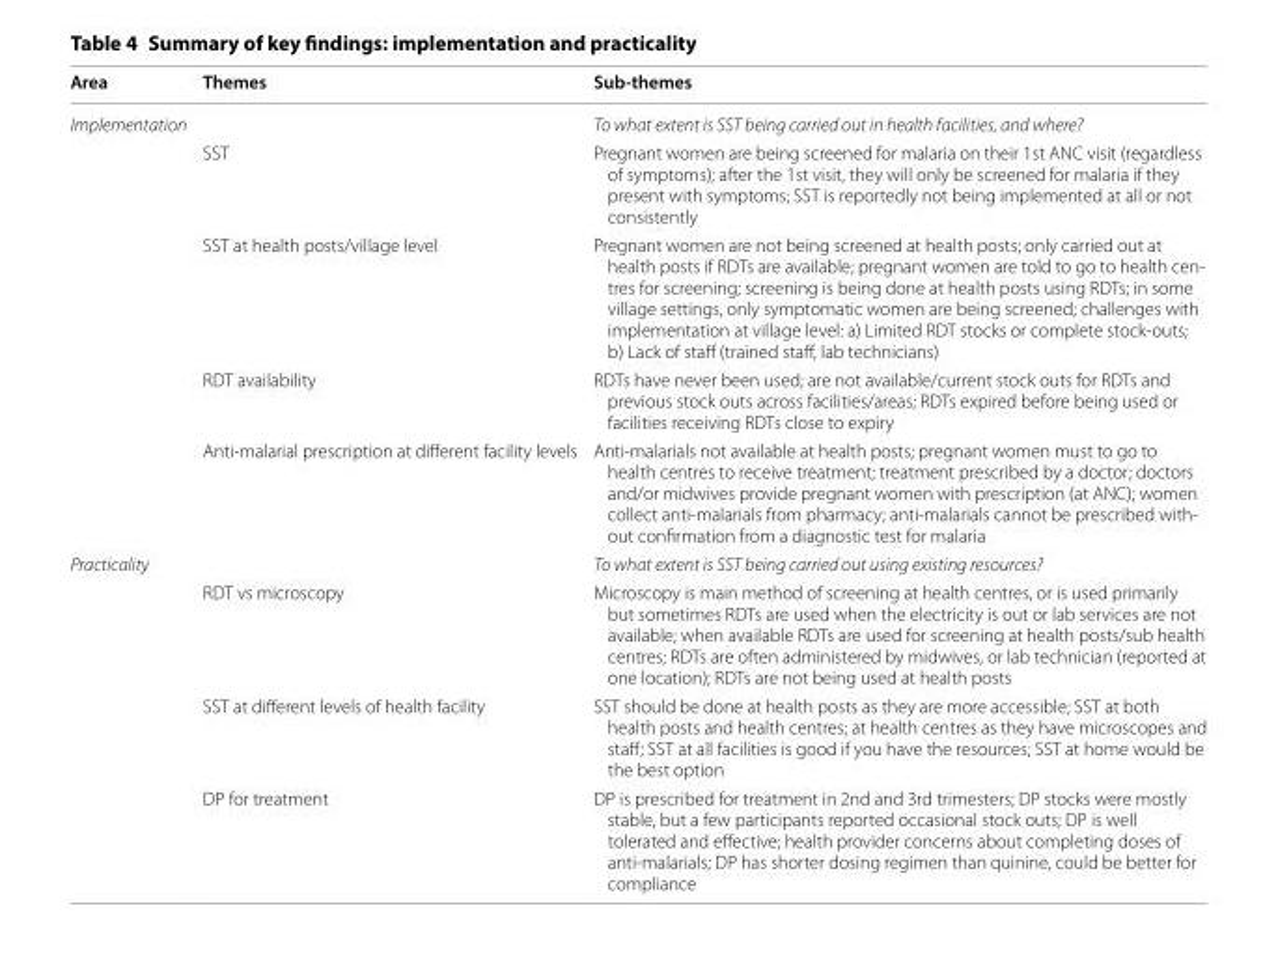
<table><thead><tr><td>Area</td><td>Themes</td><td>Sub-themes</td></tr></thead><tbody><tr><td rowspan="5">Implementation</td><td></td><td>To what extent is SST being carried out in health facilities, and where?</td></tr><tr><td>SST</td><td>Pregnant women are being screened for malaria on their 1st ANC visit (regardless of symptoms); after the 1st visit, they will only be screened for malaria if they present with symptoms; SST is reportedly not being implemented at all or not consistently</td></tr><tr><td>SST at health posts/village level</td><td>Pregnant women are not being screened at health posts; only carried out at health posts if RDTs are available; pregnant women are told to go to health cen- tres for screening; screening is being done at health posts using RDTs; in some village settings, only symptomatic women are being screened; challenges with implementation at village level: a) Limited RDT stocks or complete stock-outs; b) Lack of staff (trained staff, lab technicians)</td></tr><tr><td>RDT availability</td><td>RDTs have never been used; are not available/current stock outs for RDTs and previous stock outs across facilities/areas; RDTs expired before being used or facilities receiving RDTs close to expiry</td></tr><tr><td>Anti-malarial prescription at different facility levels</td><td>Anti-malarials not available at health posts; pregnant women must to go to health centres to receive treatment; treatment prescribed by a doctor; doctors and/or midwives provide pregnant women with prescription (at ANC); women collect anti-malarials from pharmacy; anti-malarials cannot be prescribed with- out confirmation from a diagnostic test for malaria</td></tr><tr><td rowspan="4">Practicality</td><td></td><td>To what extent is SST being carried out using existing resources?</td></tr><tr><td>RDT vs microscopy</td><td>Microscopy is main method of screening at health centres, or is used primarily but sometimes RDTs are used when the electricity is out or lab services are not available; when available RDTs are used for screening at health posts/sub health centres; RDTs are often administered by midwives, or lab technician (reported at one location); RDTs are not being used at health posts</td></tr><tr><td>SST at different levels of health facility</td><td>SST should be done at health posts as they are more accessible; SST at both health posts and health centres; at health centres as they have microscopes and staff; SST at all facilities is good if you have the resources; SST at home would be the best option</td></tr><tr><td>DP for treatment</td><td>DP is prescribed for treatment in 2nd and 3rd trimesters; DP stocks were mostly stable, but a few participants reported occasional stock outs; DP is well tolerated and effective; health provider concerns about completing doses of anti-malarials; DP has shorter dosing regimen than quinine, could be better for compliance</td></tr></tbody></table>